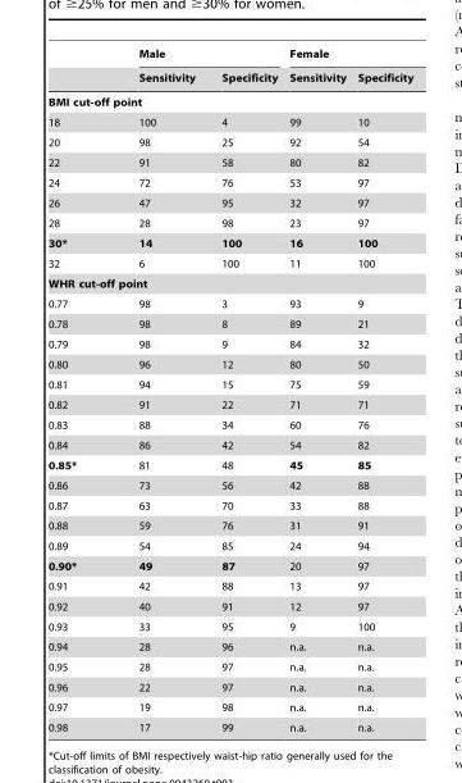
<table><thead><tr><td rowspan="2"></td><td colspan="2">Male</td><td colspan="2">Female</td></tr><tr><td>Sensitivity</td><td>Specificity</td><td>Sensitivity</td><td>Specificity</td></tr></thead><tbody><tr><td colspan="5">BMI cut-off point</td></tr><tr><td>18</td><td>100</td><td>4</td><td>99</td><td>10</td></tr><tr><td>20</td><td>98</td><td>25</td><td>92</td><td>54</td></tr><tr><td>22</td><td>91</td><td>58</td><td>80</td><td>82</td></tr><tr><td>24</td><td>72</td><td>76</td><td>53</td><td>97</td></tr><tr><td>26</td><td>47</td><td>95</td><td>32</td><td>97</td></tr><tr><td>28</td><td>28</td><td>98</td><td>23</td><td>97</td></tr><tr><td>30*</td><td>14</td><td>100</td><td>16</td><td>100</td></tr><tr><td>32</td><td>6</td><td>100</td><td>11</td><td>100</td></tr><tr><td colspan="5">WHR cut-off point</td></tr><tr><td>0.77</td><td>98</td><td>3</td><td>93</td><td>9</td></tr><tr><td>0.78</td><td>98</td><td>8</td><td>89</td><td>21</td></tr><tr><td>0.79</td><td>98</td><td>9</td><td>84</td><td>32</td></tr><tr><td>0.80</td><td>96</td><td>12</td><td>80</td><td>50</td></tr><tr><td>0.81</td><td>94</td><td>15</td><td>75</td><td>59</td></tr><tr><td>0.82</td><td>91</td><td>22</td><td>71</td><td>71</td></tr><tr><td>0.83</td><td>88</td><td>34</td><td>60</td><td>76</td></tr><tr><td>0.84</td><td>86</td><td>42</td><td>54</td><td>82</td></tr><tr><td>0.85*</td><td>81</td><td>48</td><td>45</td><td>85</td></tr><tr><td>0.86</td><td>73</td><td>56</td><td>42</td><td>88</td></tr><tr><td>0.87</td><td>63</td><td>70</td><td>33</td><td>88</td></tr><tr><td>0.88</td><td>59</td><td>76</td><td>31</td><td>91</td></tr><tr><td>0.89</td><td>54</td><td>85</td><td>24</td><td>94</td></tr><tr><td>0.90*</td><td>49</td><td>87</td><td>20</td><td>97</td></tr><tr><td>0.91</td><td>42</td><td>88</td><td>13</td><td>97</td></tr><tr><td>0.92</td><td>40</td><td>91</td><td>12</td><td>97</td></tr><tr><td>0.93</td><td>33</td><td>95</td><td>9</td><td>100</td></tr><tr><td>0.94</td><td>28</td><td>96</td><td>n.a.</td><td>n.a.</td></tr><tr><td>0.95</td><td>28</td><td>97</td><td>n.a.</td><td>n.a.</td></tr><tr><td>0.96</td><td>22</td><td>97</td><td>n.a.</td><td>n.a.</td></tr><tr><td>0.97</td><td>19</td><td>98</td><td>n.a.</td><td>n.a.</td></tr><tr><td>0.98</td><td>17</td><td>99</td><td>n.a.</td><td>n.a.</td></tr></tbody></table>